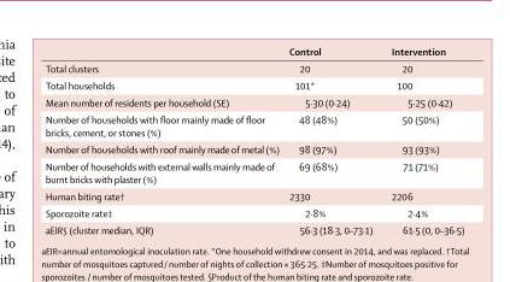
<table><thead><tr><td></td><td>Control</td><td>Intervention</td></tr></thead><tbody><tr><td>Total clusters</td><td>20</td><td>20</td></tr><tr><td>Total households</td><td>101*</td><td>100</td></tr><tr><td>Mean number of residents per household (SE)</td><td>5∙30 (0∙24)</td><td>5∙25 (0∙42)</td></tr><tr><td>Number of households with floor mainly made of floor bricks, cement, or stones (%)</td><td>48 (48%)</td><td>50 (50%)</td></tr><tr><td>Number of households with roof mainly made of metal (%)</td><td>98 (97%)</td><td>93 (93%)</td></tr><tr><td>Number of households with external walls mainly made of burnt bricks with plaster (%)</td><td>69 (68%)</td><td>71 (71%)</td></tr><tr><td>Human biting rate†</td><td>2330</td><td>2206</td></tr><tr><td>Sporozoite rate‡</td><td>2∙8%</td><td>2∙4%</td></tr><tr><td>aEIR§ (cluster median, IQR)</td><td>56∙3 (18∙3, 0–73∙1)</td><td>61∙5 (0, 0–36∙5)</td></tr></tbody></table>